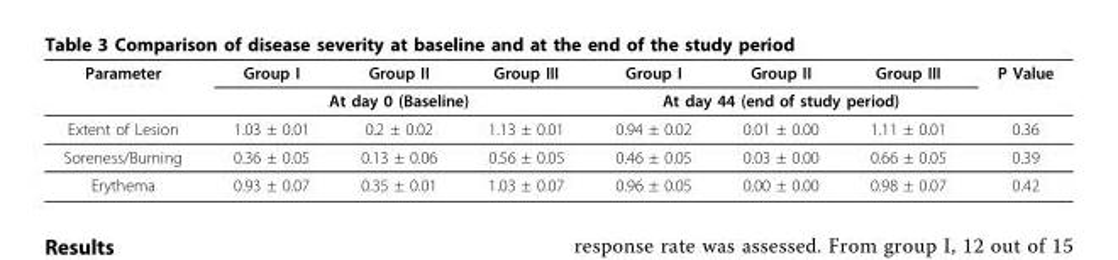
<table><thead><tr><td rowspan="2">Parameter</td><td>Group I</td><td>Group II</td><td>Group III</td><td>Group I</td><td>Group II</td><td>Group III</td><td rowspan="2">P Value</td></tr><tr><td colspan="3">At day 0 (Baseline)</td><td colspan="3">At day 44 (end of study period)</td></tr></thead><tbody><tr><td>Extent of Lesion</td><td>1.03 ± 0.01</td><td>0.2 ± 0.02</td><td>1.13 ± 0.01</td><td>0.94 ± 0.02</td><td>0.01 ± 0.00</td><td>1.11 ± 0.01</td><td>0.36</td></tr><tr><td>Soreness/Burning</td><td>0.36 ± 0.05</td><td>0.13 ± 0.06</td><td>0.56 ± 0.05</td><td>0.46 ± 0.05</td><td>0.03 ± 0.00</td><td>0.66 ± 0.05</td><td>0.39</td></tr><tr><td>Erythema</td><td>0.93 ± 0.07</td><td>0.35 ± 0.01</td><td>1.03 ± 0.07</td><td>0.96 ± 0.05</td><td>0.00 ± 0.00</td><td>0.98 ± 0.07</td><td>0.42</td></tr></tbody></table>